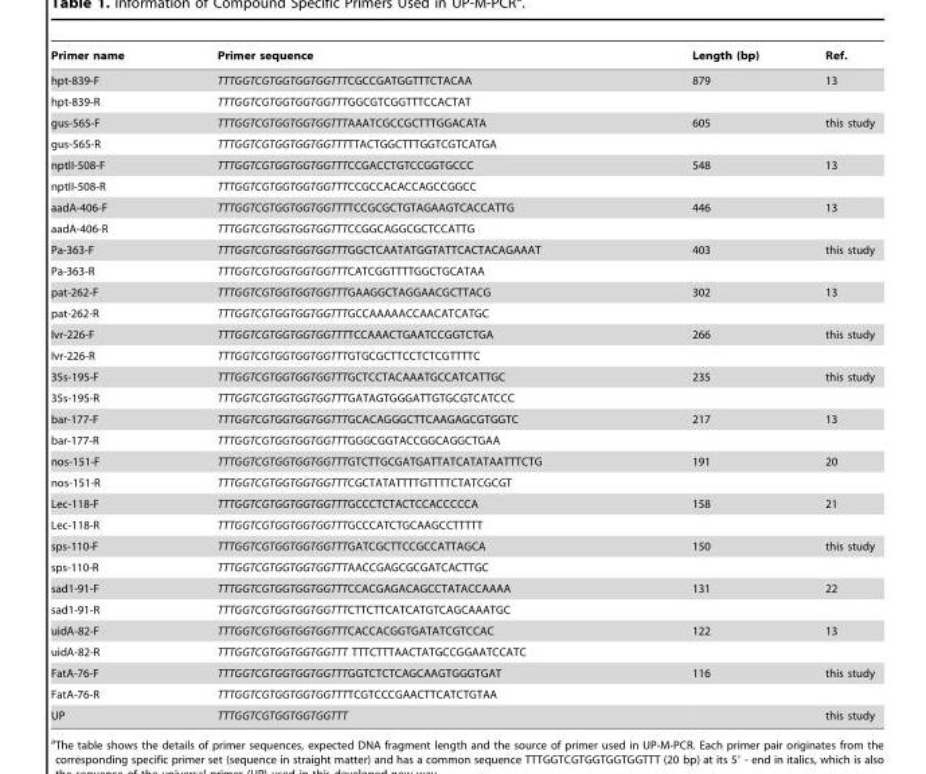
<table><thead><tr><td>Primer name</td><td>Primer sequence</td><td>Length (bp)</td><td>Ref.</td></tr></thead><tbody><tr><td>hpt-839-F</td><td>TTTGGTCGTGGTGGTGGTTTCGCCGATGGTTTCTACAA</td><td>879</td><td>13</td></tr><tr><td>hpt-839-R</td><td>TTTGGTCGTGGTGGTGGTTTGGCGTCGGTTTCCACTAT</td><td></td><td></td></tr><tr><td>gus-565-F</td><td>TTTGGTCGTGGTGGTGGTTTAAATCGCCGCTTTGGACATA</td><td>605</td><td>this study</td></tr><tr><td>gus-565-R</td><td>TTTGGTCGTGGTGGTGGTTTTTACTGGCTTTGGTCGTCATGA</td><td></td><td></td></tr><tr><td>nptII-508-F</td><td>TTTGGTCGTGGTGGTGGTTTCCGACCTGTCCGGTGCCC</td><td>548</td><td>13</td></tr><tr><td>nptII-508-R</td><td>TTTGGTCGTGGTGGTGGTTTCCGCCACACCAGCCGGCC</td><td></td><td></td></tr><tr><td>aadA-406-F</td><td>TTTGGTCGTGGTGGTGGTTTTCCGCGCTGTAGAAGTCACCATTG</td><td>446</td><td>13</td></tr><tr><td>aadA-406-R</td><td>TTTGGTCGTGGTGGTGGTTTCCGGCAGGCGCTCCATTG</td><td></td><td></td></tr><tr><td>Pa-363-F</td><td>TTTGGTCGTGGTGGTGGTTTGGCTCAATATGGTATTCACTACAGAAAT</td><td>403</td><td>this study</td></tr><tr><td>Pa-363-R</td><td>TTTGGTCGTGGTGGTGGTTTCATCGGTTTTGGCTGCATAA</td><td></td><td></td></tr><tr><td>pat-262-F</td><td>TTTGGTCGTGGTGGTGGTTTGAAGGCTAGGAACGCTTACG</td><td>302</td><td>13</td></tr><tr><td>pat-262-R</td><td>TTTGGTCGTGGTGGTGGTTTGCCAAAAACCAACATCATGC</td><td></td><td></td></tr><tr><td>Ivr-226-F</td><td>TTTGGTCGTGGTGGTGGTTTTCCAAACTGAATCCGGTCTGA</td><td>266</td><td>this study</td></tr><tr><td>Ivr-226-R</td><td>TTTGGTCGTGGTGGTGGTTTGTGCGCTTCCTCTCGTTTTC</td><td></td><td></td></tr><tr><td>35s-195-F</td><td>TTTGGTCGTGGTGGTGGTTTGCTCCTACAAATGCCATCATTGC</td><td>235</td><td>this study</td></tr><tr><td>35s-195-R</td><td>TTTGGTCGTGGTGGTGGTTTGATAGTGGGATTGTGCGTCATCCC</td><td></td><td></td></tr><tr><td>bar-177-F</td><td>TTTGGTCGTGGTGGTGGTTTGCACAGGGCTTCAAGAGCGTGGTC</td><td>217</td><td>13</td></tr><tr><td>bar-177-R</td><td>TTTGGTCGTGGTGGTGGTTTGGGCGGTACCGGCAGGCTGAA</td><td></td><td></td></tr><tr><td>nos-151-F</td><td>TTTGGTCGTGGTGGTGGTTTGTCTTGCGATGATTATCATATAATTTCTG</td><td>191</td><td>20</td></tr><tr><td>nos-151-R</td><td>TTTGGTCGTGGTGGTGGTTTCGCTATATTTTGTTTTCTATCGCGT</td><td></td><td></td></tr><tr><td>Lec-118-F</td><td>TTTGGTCGTGGTGGTGGTTTGCCCTCTACTCCACCCCCA</td><td>158</td><td>21</td></tr><tr><td>Lec-118-R</td><td>TTTGGTCGTGGTGGTGGTTTGCCCATCTGCAAGCCTTTTT</td><td></td><td></td></tr><tr><td>sps-110-F</td><td>TTTGGTCGTGGTGGTGGTTTGATCGCTTCCGCCATTAGCA</td><td>150</td><td>this study</td></tr><tr><td>sps-110-R</td><td>TTTGGTCGTGGTGGTGGTTTAACCGAGCGCGATCACTTGC</td><td></td><td></td></tr><tr><td>sad1-91-F</td><td>TTTGGTCGTGGTGGTGGTTTCCACGAGACAGCCTATACCAAAA</td><td>131</td><td>22</td></tr><tr><td>sad1-91-R</td><td>TTTGGTCGTGGTGGTGGTTTCTTCTTCATCATGTCAGCAAATGC</td><td></td><td></td></tr><tr><td>uidA-82-F</td><td>TTTGGTCGTGGTGGTGGTTTCACCACGGTGATATCGTCCAC</td><td>122</td><td>13</td></tr><tr><td>uidA-82-R</td><td>TTTGGTCGTGGTGGTGGTTT TTTCTTTAACTATGCCGGAATCCATC</td><td></td><td></td></tr><tr><td>FatA-76-F</td><td>TTTGGTCGTGGTGGTGGTTTGGTCTCTCAGCAAGTGGGTGAT</td><td>116</td><td>this study</td></tr><tr><td>FatA-76-R</td><td>TTTGGTCGTGGTGGTGGTTTTCGTCCCGAACTTCATCTGTAA</td><td></td><td></td></tr><tr><td>UP</td><td>TTTGGTCGTGGTGGTGGTTT</td><td></td><td>this study</td></tr></tbody></table>